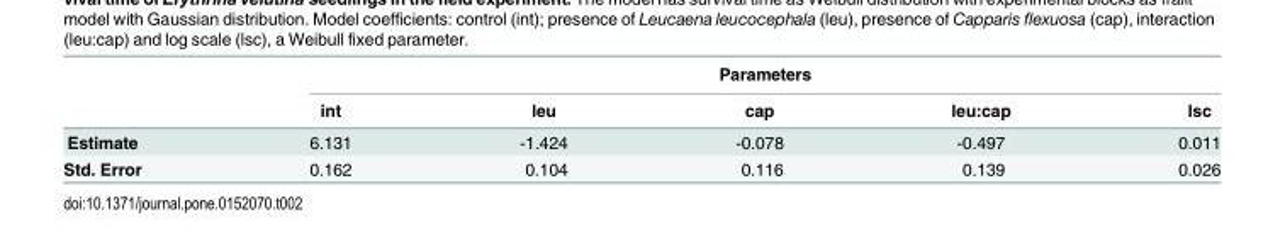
<table><thead><tr><td rowspan="2"></td><td colspan="5">Parameters</td></tr><tr><td>int</td><td>leu</td><td>cap</td><td>leu:cap</td><td>lsc</td></tr></thead><tbody><tr><td>Estimate</td><td>6.131</td><td>-1.424</td><td>-0.078</td><td>-0.497</td><td>0.011</td></tr><tr><td>Std. Error</td><td>0.162</td><td>0.104</td><td>0.116</td><td>0.139</td><td>0.026</td></tr></tbody></table>